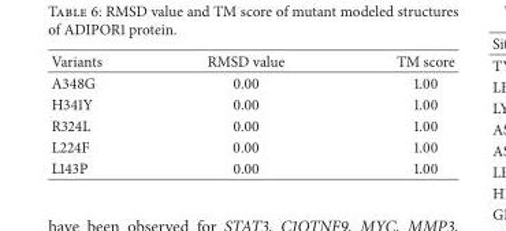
<table><thead><tr><td>Variants</td><td>RMSD value</td><td>TM score</td></tr></thead><tbody><tr><td>A348G</td><td>0.00</td><td>1.00</td></tr><tr><td>H341Y</td><td>0.00</td><td>1.00</td></tr><tr><td>R324L</td><td>0.00</td><td>1.00</td></tr><tr><td>L224F</td><td>0.00</td><td>1.00</td></tr><tr><td>L143P</td><td>0.00</td><td>1.00</td></tr></tbody></table>